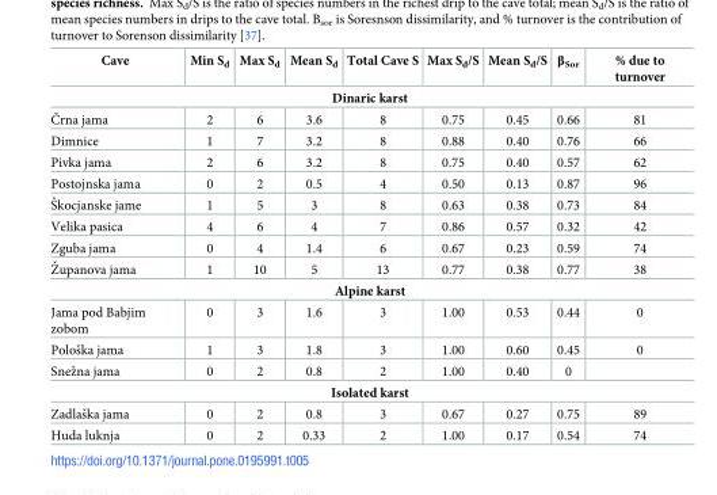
<table><thead><tr><td>Cave</td><td>Min S<sub>d</sub></td><td>Max S<sub>d</sub></td><td>Mean S<sub>d</sub></td><td>Total Cave S</td><td>Max S<sub>d</sub>/S</td><td>Mean S<sub>d</sub>/S</td><td>β<sub>Sor</sub></td><td>% due to turnover</td></tr></thead><tbody><tr><td colspan="9">Dinaric karst</td></tr><tr><td>Črna jama</td><td>2</td><td>6</td><td>3.6</td><td>8</td><td>0.75</td><td>0.45</td><td>0.66</td><td>81</td></tr><tr><td>Dimnice</td><td>1</td><td>7</td><td>3.2</td><td>8</td><td>0.88</td><td>0.40</td><td>0.76</td><td>66</td></tr><tr><td>Pivka jama</td><td>2</td><td>6</td><td>3.2</td><td>8</td><td>0.75</td><td>0.40</td><td>0.57</td><td>62</td></tr><tr><td>Postojnska jama</td><td>0</td><td>2</td><td>0.5</td><td>4</td><td>0.50</td><td>0.13</td><td>0.87</td><td>96</td></tr><tr><td>Sˇkocjanske jame</td><td>1</td><td>5</td><td>3</td><td>8</td><td>0.63</td><td>0.38</td><td>0.73</td><td>84</td></tr><tr><td>Velika pasica</td><td>4</td><td>6</td><td>4</td><td>7</td><td>0.86</td><td>0.57</td><td>0.32</td><td>42</td></tr><tr><td>Zguba jama</td><td>0</td><td>4</td><td>1.4</td><td>6</td><td>0.67</td><td>0.23</td><td>0.59</td><td>74</td></tr><tr><td>Zˇupanova jama</td><td>1</td><td>10</td><td>5</td><td>13</td><td>0.77</td><td>0.38</td><td>0.77</td><td>38</td></tr><tr><td colspan="9">Alpine karst</td></tr><tr><td>Jama pod Babjim zobom</td><td>0</td><td>3</td><td>1.6</td><td>3</td><td>1.00</td><td>0.53</td><td>0.44</td><td>0</td></tr><tr><td>Polosˇka jama</td><td>1</td><td>3</td><td>1.8</td><td>3</td><td>1.00</td><td>0.60</td><td>0.45</td><td>0</td></tr><tr><td>Snezˇna jama</td><td>0</td><td>2</td><td>0.8</td><td>2</td><td>1.00</td><td>0.40</td><td>0</td><td></td></tr><tr><td colspan="9">Isolated karst</td></tr><tr><td>Zadlasˇka jama</td><td>0</td><td>2</td><td>0.8</td><td>3</td><td>0.67</td><td>0.27</td><td>0.75</td><td>89</td></tr><tr><td>Huda luknja</td><td>0</td><td>2</td><td>0.33</td><td>2</td><td>1.00</td><td>0.17</td><td>0.54</td><td>74</td></tr></tbody></table>